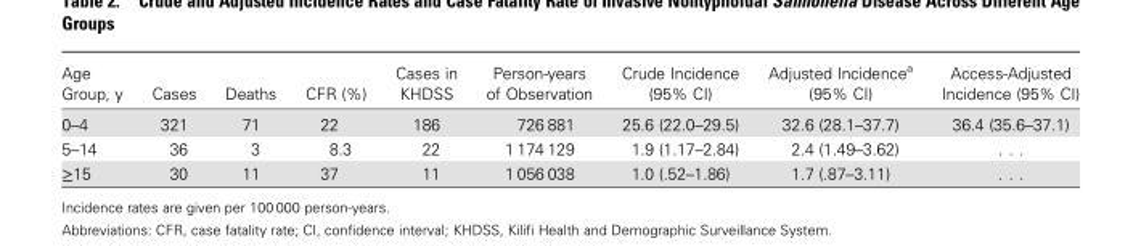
<table><thead><tr><td>Age Group, y</td><td>Cases</td><td>Deaths</td><td>CFR (%)</td><td>Cases in KHDSS</td><td>Person-years of Observation</td><td>Crude Incidence (95% CI)</td><td>Adjusted Incidence<sup>a</sup> (95% CI)</td><td>Access-Adjusted Incidence (95% CI)</td></tr></thead><tbody><tr><td>0–4</td><td>321</td><td>71</td><td>22</td><td>186</td><td>726 881</td><td>25.6 (22.0–29.5)</td><td>32.6 (28.1–37.7)</td><td>36.4 (35.6–37.1)</td></tr><tr><td>5–14</td><td>36</td><td>3</td><td>8.3</td><td>22</td><td>1 174 129</td><td>1.9 (1.17–2.84)</td><td>2.4 (1.49–3.62)</td><td>. . .</td></tr><tr><td>≥15</td><td>30</td><td>11</td><td>37</td><td>11</td><td>1 056 038</td><td>1.0 (.52–1.86)</td><td>1.7 (.87–3.11)</td><td>. . .</td></tr></tbody></table>